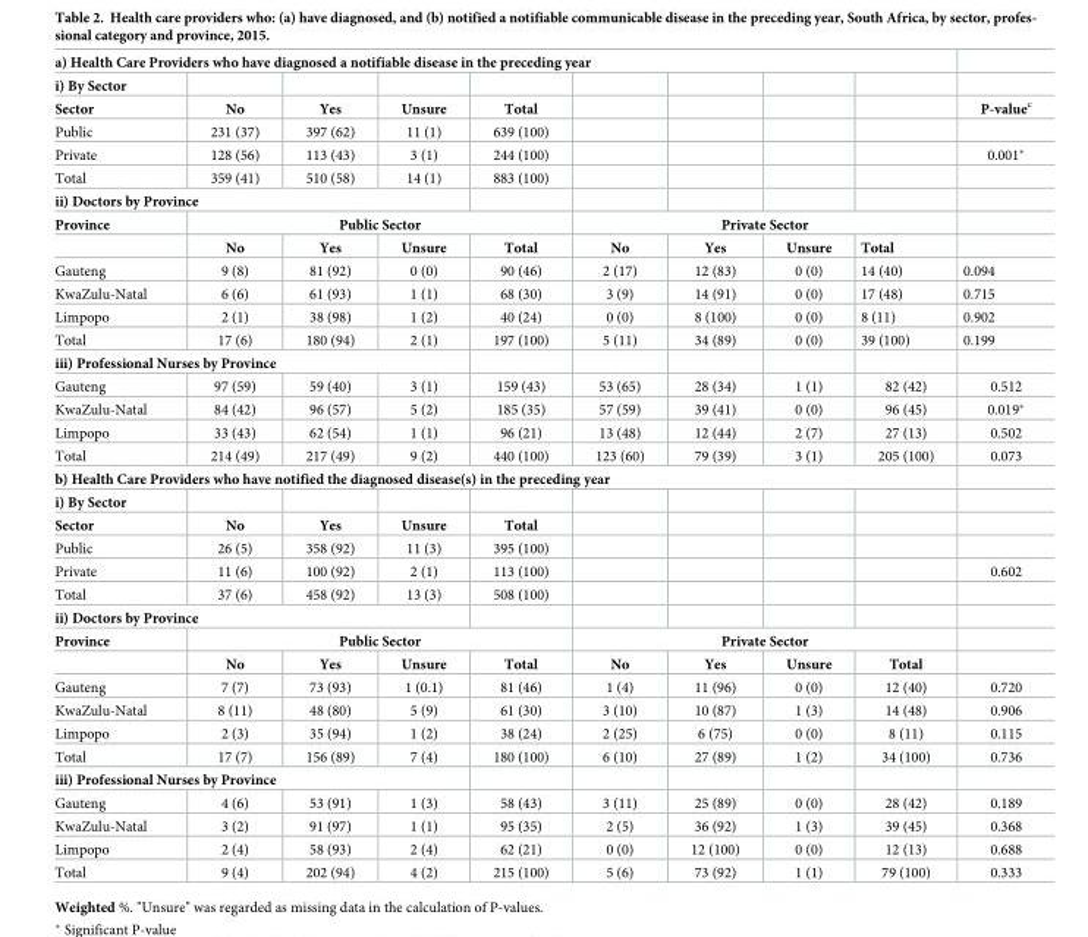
<table><tbody><tr><td colspan="10">a) Health Care Providers who have diagnosed a notifiable disease in the preceding year</td></tr><tr><td colspan="10">i) By Sector</td></tr><tr><td>Sector</td><td>No</td><td>Yes</td><td>Unsure</td><td>Total</td><td></td><td></td><td></td><td></td><td>P-value<sup>c</sup></td></tr><tr><td>Public</td><td>231 (37)</td><td>397 (62)</td><td>11 (1)</td><td>639 (100)</td><td></td><td></td><td></td><td></td><td></td></tr><tr><td>Private</td><td>128 (56)</td><td>113 (43)</td><td>3 (1)</td><td>244 (100)</td><td></td><td></td><td></td><td></td><td>0.001*</td></tr><tr><td>Total</td><td>359 (41)</td><td>510 (58)</td><td>14 (1)</td><td>883 (100)</td><td></td><td></td><td></td><td></td><td></td></tr><tr><td colspan="10">ii) Doctors by Province</td></tr><tr><td rowspan="2">Province</td><td colspan="4">Public Sector</td><td colspan="4">Private Sector</td><td></td></tr><tr><td>No</td><td>Yes</td><td>Unsure</td><td>Total</td><td>No</td><td>Yes</td><td>Unsure</td><td>Total</td><td></td></tr><tr><td>Gauteng</td><td>9 (8)</td><td>81 (92)</td><td>0 (0)</td><td>90 (46)</td><td>2 (17)</td><td>12 (83)</td><td>0 (0)</td><td>14 (40)</td><td>0.094</td></tr><tr><td>KwaZulu-Natal</td><td>6 (6)</td><td>61 (93)</td><td>1 (1)</td><td>68 (30)</td><td>3 (9)</td><td>14 (91)</td><td>0 (0)</td><td>17 (48)</td><td>0.715</td></tr><tr><td>Limpopo</td><td>2 (1)</td><td>38 (98)</td><td>1 (2)</td><td>40 (24)</td><td>0 (0)</td><td>8 (100)</td><td>0 (0)</td><td>8 (11)</td><td>0.902</td></tr><tr><td>Total</td><td>17 (6)</td><td>180 (94)</td><td>2 (1)</td><td>197 (100)</td><td>5 (11)</td><td>34 (89)</td><td>0 (0)</td><td>39 (100)</td><td>0.199</td></tr><tr><td colspan="10">iii) Professional Nurses by Province</td></tr><tr><td>Gauteng</td><td>97 (59)</td><td>59 (40)</td><td>3 (1)</td><td>159 (43)</td><td>53 (65)</td><td>28 (34)</td><td>1 (1)</td><td>82 (42)</td><td>0.512</td></tr><tr><td>KwaZulu-Natal</td><td>84 (42)</td><td>96 (57)</td><td>5 (2)</td><td>185 (35)</td><td>57 (59)</td><td>39 (41)</td><td>0 (0)</td><td>96 (45)</td><td>0.019*</td></tr><tr><td>Limpopo</td><td>33 (43)</td><td>62 (54)</td><td>1 (1)</td><td>96 (21)</td><td>13 (48)</td><td>12 (44)</td><td>2 (7)</td><td>27 (13)</td><td>0.502</td></tr><tr><td>Total</td><td>214 (49)</td><td>217 (49)</td><td>9 (2)</td><td>440 (100)</td><td>123 (60)</td><td>79 (39)</td><td>3 (1)</td><td>205 (100)</td><td>0.073</td></tr><tr><td colspan="10">b) Health Care Providers who have notified the diagnosed disease(s) in the preceding year</td></tr><tr><td colspan="10">i) By Sector</td></tr><tr><td>Sector</td><td>No</td><td>Yes</td><td>Unsure</td><td>Total</td><td></td><td></td><td></td><td></td><td></td></tr><tr><td>Public</td><td>26 (5)</td><td>358 (92)</td><td>11 (3)</td><td>395 (100)</td><td></td><td></td><td></td><td></td><td></td></tr><tr><td>Private</td><td>11 (6)</td><td>100 (92)</td><td>2 (1)</td><td>113 (100)</td><td></td><td></td><td></td><td></td><td>0.602</td></tr><tr><td>Total</td><td>37 (6)</td><td>458 (92)</td><td>13 (3)</td><td>508 (100)</td><td></td><td></td><td></td><td></td><td></td></tr><tr><td colspan="10">ii) Doctors by Province</td></tr><tr><td rowspan="2">Province</td><td colspan="4">Public Sector</td><td colspan="4">Private Sector</td><td></td></tr><tr><td>No</td><td>Yes</td><td>Unsure</td><td>Total</td><td>No</td><td>Yes</td><td>Unsure</td><td>Total</td><td></td></tr><tr><td>Gauteng</td><td>7 (7)</td><td>73 (93)</td><td>1 (0.1)</td><td>81 (46)</td><td>1 (4)</td><td>11 (96)</td><td>0 (0)</td><td>12 (40)</td><td>0.720</td></tr><tr><td>KwaZulu-Natal</td><td>8 (11)</td><td>48 (80)</td><td>5 (9)</td><td>61 (30)</td><td>3 (10)</td><td>10 (87)</td><td>1 (3)</td><td>14 (48)</td><td>0.906</td></tr><tr><td>Limpopo</td><td>2 (3)</td><td>35 (94)</td><td>1 (2)</td><td>38 (24)</td><td>2 (25)</td><td>6 (75)</td><td>0 (0)</td><td>8 (11)</td><td>0.115</td></tr><tr><td>Total</td><td>17 (7)</td><td>156 (89)</td><td>7 (4)</td><td>180 (100)</td><td>6 (10)</td><td>27 (89)</td><td>1 (2)</td><td>34 (100)</td><td>0.736</td></tr><tr><td colspan="10">iii) Professional Nurses by Province</td></tr><tr><td>Gauteng</td><td>4 (6)</td><td>53 (91)</td><td>1 (3)</td><td>58 (43)</td><td>3 (11)</td><td>25 (89)</td><td>0 (0)</td><td>28 (42)</td><td>0.189</td></tr><tr><td>KwaZulu-Natal</td><td>3 (2)</td><td>91 (97)</td><td>1 (1)</td><td>95 (35)</td><td>2 (5)</td><td>36 (92)</td><td>1 (3)</td><td>39 (45)</td><td>0.368</td></tr><tr><td>Limpopo</td><td>2 (4)</td><td>58 (93)</td><td>2 (4)</td><td>62 (21)</td><td>0 (0)</td><td>12 (100)</td><td>0 (0)</td><td>12 (13)</td><td>0.688</td></tr><tr><td>Total</td><td>9 (4)</td><td>202 (94)</td><td>4 (2)</td><td>215 (100)</td><td>5 (6)</td><td>73 (92)</td><td>1 (1)</td><td>79 (100)</td><td>0.333</td></tr></tbody></table>